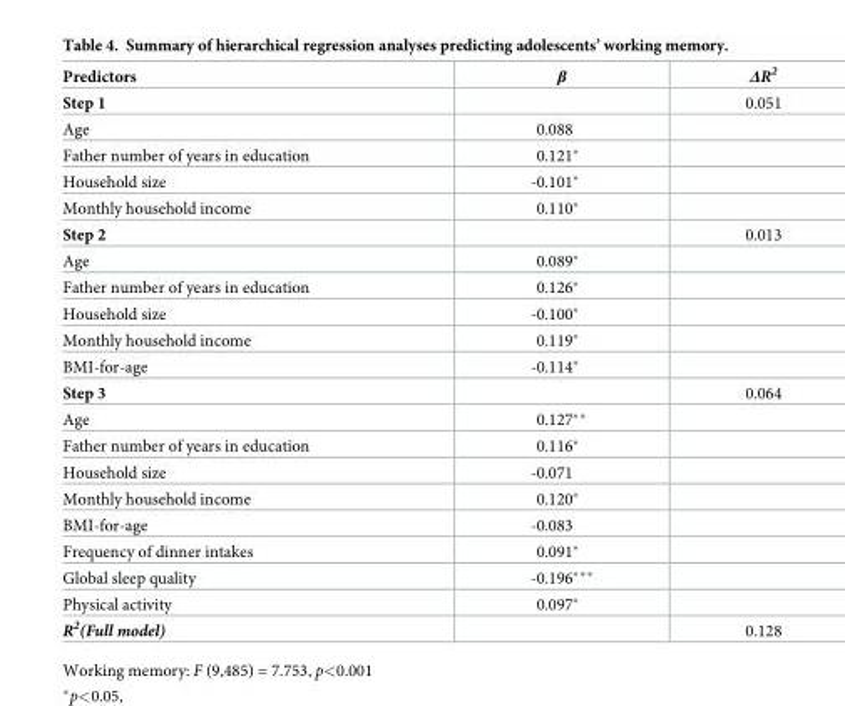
<table><thead><tr><td>Predictors</td><td>β</td><td>ΔR<sup>2</sup></td></tr></thead><tbody><tr><td>Step 1</td><td></td><td>0.051</td></tr><tr><td>Age</td><td>0.088</td><td></td></tr><tr><td>Father number of years in education</td><td>0.121*</td><td></td></tr><tr><td>Household size</td><td>-0.101*</td><td></td></tr><tr><td>Monthly household income</td><td>0.110*</td><td></td></tr><tr><td>Step 2</td><td></td><td>0.013</td></tr><tr><td>Age</td><td>0.089*</td><td></td></tr><tr><td>Father number of years in education</td><td>0.126*</td><td></td></tr><tr><td>Household size</td><td>-0.100*</td><td></td></tr><tr><td>Monthly household income</td><td>0.119*</td><td></td></tr><tr><td>BMI-for-age</td><td>-0.114*</td><td></td></tr><tr><td>Step 3</td><td></td><td>0.064</td></tr><tr><td>Age</td><td>0.127**</td><td></td></tr><tr><td>Father number of years in education</td><td>0.116*</td><td></td></tr><tr><td>Household size</td><td>-0.071</td><td></td></tr><tr><td>Monthly household income</td><td>0.120*</td><td></td></tr><tr><td>BMI-for-age</td><td>-0.083</td><td></td></tr><tr><td>Frequency of dinner intakes</td><td>0.091*</td><td></td></tr><tr><td>Global sleep quality</td><td>-0.196***</td><td></td></tr><tr><td>Physical activity</td><td>0.097*</td><td></td></tr><tr><td>R<sup>2</sup>(Full model)</td><td></td><td>0.128</td></tr></tbody></table>